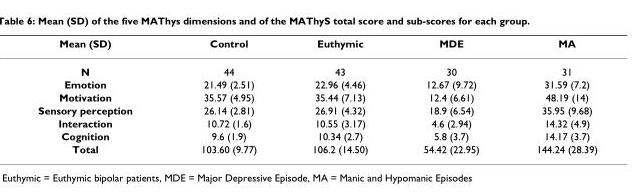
<table><thead><tr><td>Mean (SD)</td><td>Control</td><td>Euthymic</td><td>MDE</td><td>MA</td></tr></thead><tbody><tr><td>N</td><td>44</td><td>43</td><td>30</td><td>31</td></tr><tr><td>Emotion</td><td>21.49 (2.51)</td><td>22.96 (4.46)</td><td>12.67 (9.72)</td><td>31.59 (7.2)</td></tr><tr><td>Motivation</td><td>35.57 (4.95)</td><td>35.44 (7.13)</td><td>12.4 (6.61)</td><td>48.19 (14)</td></tr><tr><td>Sensory perception</td><td>26.14 (2.81)</td><td>26.91 (4.32)</td><td>18.9 (6.54)</td><td>35.95 (9.68)</td></tr><tr><td>Interaction</td><td>10.72 (1.6)</td><td>10.55 (3.17)</td><td>4.6 (2.94)</td><td>14.32 (4.9)</td></tr><tr><td>Cognition</td><td>9.6 (1.9)</td><td>10.34 (2.7)</td><td>5.8 (3.7)</td><td>14.17 (3.7)</td></tr><tr><td>Total</td><td>103.60 (9.77)</td><td>106.2 (14.50)</td><td>54.42 (22.95)</td><td>144.24 (28.39)</td></tr></tbody></table>